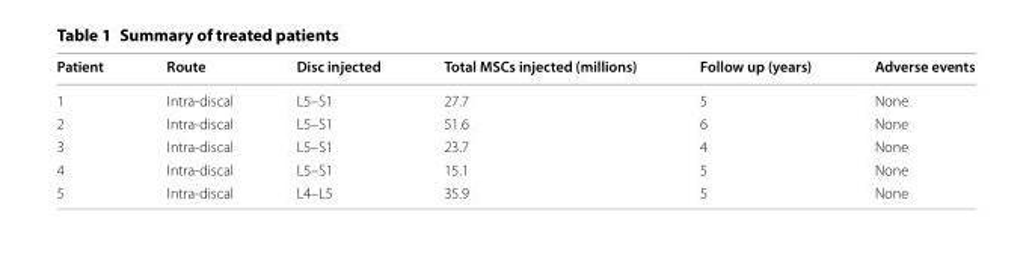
<table><thead><tr><td>Patient</td><td>Route</td><td>Disc injected</td><td>Total MSCs injected (millions)</td><td>Follow up (years)</td><td>Adverse events</td></tr></thead><tbody><tr><td>1</td><td>Intra-discal</td><td>L5–S1</td><td>27.7</td><td>5</td><td>None</td></tr><tr><td>2</td><td>Intra-discal</td><td>L5–S1</td><td>51.6</td><td>6</td><td>None</td></tr><tr><td>3</td><td>Intra-discal</td><td>L5–S1</td><td>23.7</td><td>4</td><td>None</td></tr><tr><td>4</td><td>Intra-discal</td><td>L5–S1</td><td>15.1</td><td>5</td><td>None</td></tr><tr><td>5</td><td>Intra-discal</td><td>L4–L5</td><td>35.9</td><td>5</td><td>None</td></tr></tbody></table>